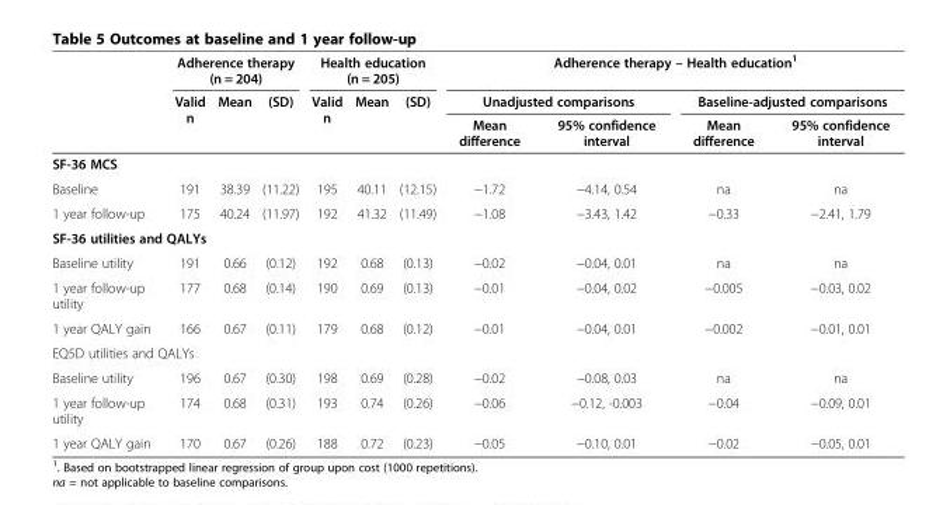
<table><thead><tr><td rowspan="3"></td><td colspan="3">Adherence therapy (n = 204)</td><td colspan="3">Health education (n = 205)</td><td colspan="4">Adherence therapy – Health education<sup>1</sup></td></tr><tr><td rowspan="2">Valid n</td><td rowspan="2">Mean</td><td rowspan="2">(SD)</td><td rowspan="2">Valid n</td><td rowspan="2">Mean</td><td rowspan="2">(SD)</td><td colspan="2">Unadjusted comparisons</td><td colspan="2">Baseline-adjusted comparisons</td></tr><tr><td>Mean difference</td><td>95% confidence interval</td><td>Mean difference</td><td>95% confidence interval</td></tr></thead><tbody><tr><td colspan="11">SF-36 MCS</td></tr><tr><td>Baseline</td><td>191</td><td>38.39</td><td>(11.22)</td><td>195</td><td>40.11</td><td>(12.15)</td><td>−1.72</td><td>−4.14, 0.54</td><td>na</td><td>na</td></tr><tr><td>1 year follow-up</td><td>175</td><td>40.24</td><td>(11.97)</td><td>192</td><td>41.32</td><td>(11.49)</td><td>−1.08</td><td>−3.43, 1.42</td><td>−0.33</td><td>−2.41, 1.79</td></tr><tr><td colspan="11">SF-36 utilities and QALYs</td></tr><tr><td>Baseline utility</td><td>191</td><td>0.66</td><td>(0.12)</td><td>192</td><td>0.68</td><td>(0.13)</td><td>−0.02</td><td>−0.04, 0.01</td><td>na</td><td>na</td></tr><tr><td>1 year follow-up utility</td><td>177</td><td>0.68</td><td>(0.14)</td><td>190</td><td>0.69</td><td>(0.13)</td><td>−0.01</td><td>−0.04, 0.02</td><td>−0.005</td><td>−0.03, 0.02</td></tr><tr><td>1 year QALY gain</td><td>166</td><td>0.67</td><td>(0.11)</td><td>179</td><td>0.68</td><td>(0.12)</td><td>−0.01</td><td>−0.04, 0.01</td><td>−0.002</td><td>−0.01, 0.01</td></tr><tr><td colspan="11">EQ5D utilities and QALYs</td></tr><tr><td>Baseline utility</td><td>196</td><td>0.67</td><td>(0.30)</td><td>198</td><td>0.69</td><td>(0.28)</td><td>−0.02</td><td>−0.08, 0.03</td><td>na</td><td>na</td></tr><tr><td>1 year follow-up utility</td><td>174</td><td>0.68</td><td>(0.31)</td><td>193</td><td>0.74</td><td>(0.26)</td><td>−0.06</td><td>−0.12, -0.003</td><td>−0.04</td><td>−0.09, 0.01</td></tr><tr><td>1 year QALY gain</td><td>170</td><td>0.67</td><td>(0.26)</td><td>188</td><td>0.72</td><td>(0.23)</td><td>−0.05</td><td>−0.10, 0.01</td><td>−0.02</td><td>−0.05, 0.01</td></tr></tbody></table>